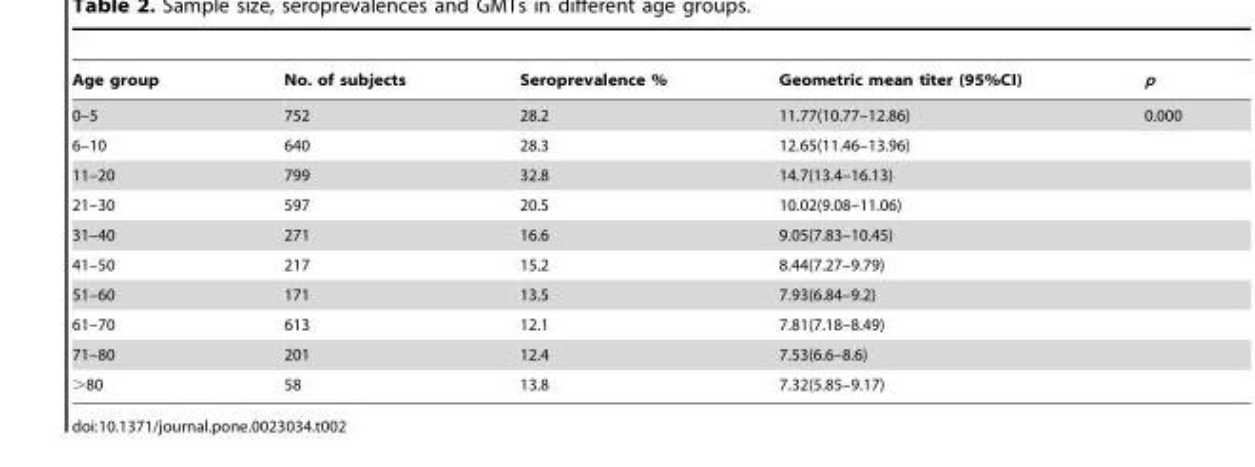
<table><thead><tr><td>Age group</td><td>No. of subjects</td><td>Seroprevalence %</td><td>Geometric mean titer (95%CI)</td><td>p</td></tr></thead><tbody><tr><td>0–5</td><td>752</td><td>28.2</td><td>11.77(10.77–12.86)</td><td>0.000</td></tr><tr><td>6–10</td><td>640</td><td>28.3</td><td>12.65(11.46–13.96)</td><td></td></tr><tr><td>11–20</td><td>799</td><td>32.8</td><td>14.7(13.4–16.13)</td><td></td></tr><tr><td>21–30</td><td>597</td><td>20.5</td><td>10.02(9.08–11.06)</td><td></td></tr><tr><td>31–40</td><td>271</td><td>16.6</td><td>9.05(7.83–10.45)</td><td></td></tr><tr><td>41–50</td><td>217</td><td>15.2</td><td>8.44(7.27–9.79)</td><td></td></tr><tr><td>51–60</td><td>171</td><td>13.5</td><td>7.93(6.84–9.2)</td><td></td></tr><tr><td>61–70</td><td>613</td><td>12.1</td><td>7.81(7.18–8.49)</td><td></td></tr><tr><td>71–80</td><td>201</td><td>12.4</td><td>7.53(6.6–8.6)</td><td></td></tr><tr><td>&gt;80</td><td>58</td><td>13.8</td><td>7.32(5.85–9.17)</td><td></td></tr></tbody></table>